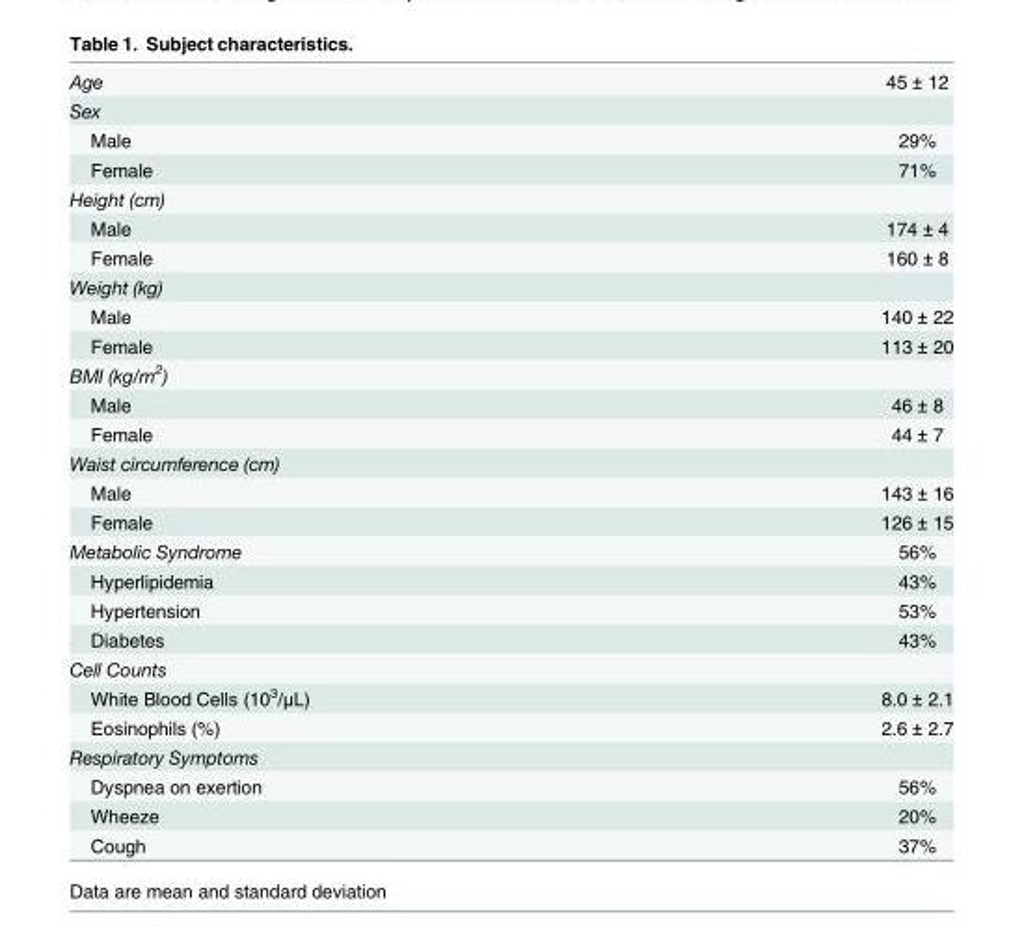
<table><tbody><tr><td>Age</td><td>45 ± 12</td></tr><tr><td colspan="2">Sex</td></tr><tr><td>Male</td><td>29%</td></tr><tr><td>Female</td><td>71%</td></tr><tr><td colspan="2">Height (cm)</td></tr><tr><td>Male</td><td>174 ± 4</td></tr><tr><td>Female</td><td>160 ± 8</td></tr><tr><td colspan="2">Weight (kg)</td></tr><tr><td>Male</td><td>140 ± 22</td></tr><tr><td>Female</td><td>113 ± 20</td></tr><tr><td colspan="2">BMI (kg/m<sup>2</sup>)</td></tr><tr><td>Male</td><td>46 ± 8</td></tr><tr><td>Female</td><td>44 ± 7</td></tr><tr><td colspan="2">Waist circumference (cm)</td></tr><tr><td>Male</td><td>143 ± 16</td></tr><tr><td>Female</td><td>126 ± 15</td></tr><tr><td>Metabolic Syndrome</td><td>56%</td></tr><tr><td>Hyperlipidemia</td><td>43%</td></tr><tr><td>Hypertension</td><td>53%</td></tr><tr><td>Diabetes</td><td>43%</td></tr><tr><td colspan="2">Cell Counts</td></tr><tr><td>White Blood Cells (10<sup>3</sup>/μL)</td><td>8.0 ± 2.1</td></tr><tr><td>Eosinophils (%)</td><td>2.6 ± 2.7</td></tr><tr><td colspan="2">Respiratory Symptoms</td></tr><tr><td>Dyspnea on exertion</td><td>56%</td></tr><tr><td>Wheeze</td><td>20%</td></tr><tr><td>Cough</td><td>37%</td></tr></tbody></table>